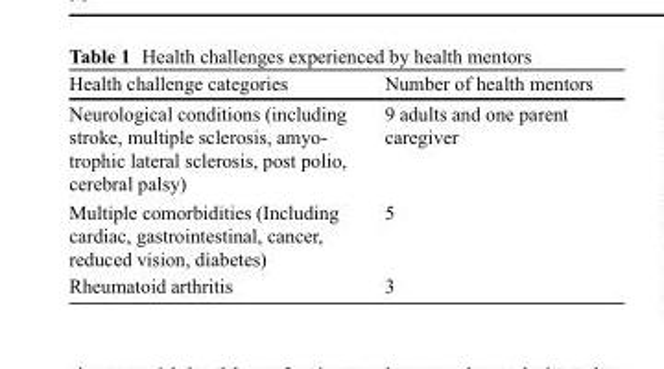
<table><thead><tr><td>Health challenge categories</td><td>Number of health mentors</td></tr></thead><tbody><tr><td>Neurological conditions (including stroke, multiple sclerosis, amyo- trophic lateral sclerosis, post polio, cerebral palsy)</td><td>9 adults and one parent caregiver</td></tr><tr><td>Multiple comorbidities (Including cardiac, gastrointestinal, cancer, reduced vision, diabetes)</td><td>5</td></tr><tr><td>Rheumatoid arthritis</td><td>3</td></tr></tbody></table>